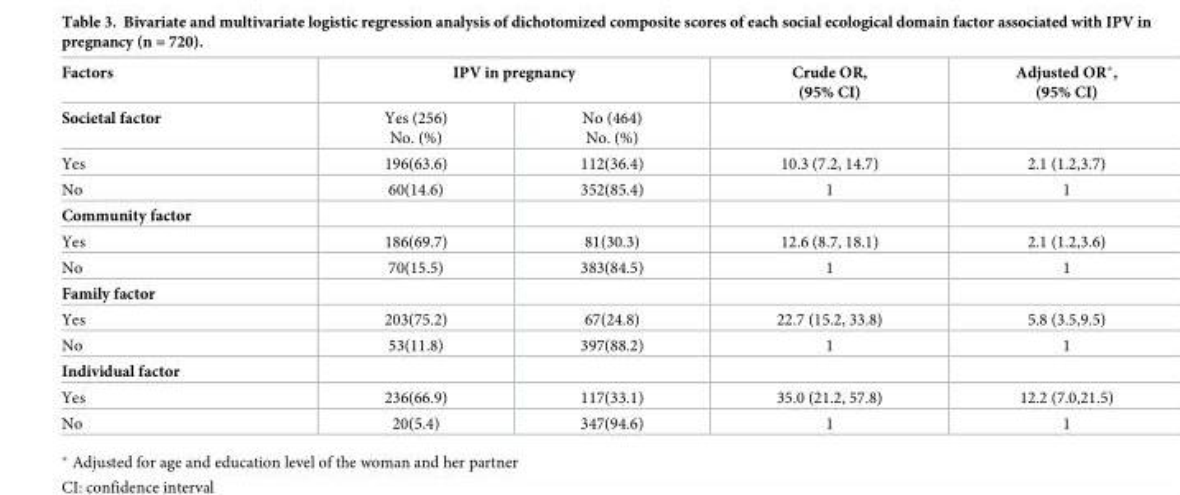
<table><thead><tr><td rowspan="2">Factors Societal factor</td><td colspan="2">IPV in pregnancy</td><td rowspan="2">Crude OR, (95% CI)</td><td rowspan="2">Adjusted OR*, (95% CI)</td></tr><tr><td>Yes (256) No. (%)</td><td>No (464) No. (%)</td></tr></thead><tbody><tr><td>Yes</td><td>196(63.6)</td><td>112(36.4)</td><td>10.3 (7.2, 14.7)</td><td>2.1 (1.2,3.7)</td></tr><tr><td>No</td><td>60(14.6)</td><td>352(85.4)</td><td>1</td><td>1</td></tr><tr><td colspan="5">Community factor</td></tr><tr><td>Yes</td><td>186(69.7)</td><td>81(30.3)</td><td>12.6 (8.7, 18.1)</td><td>2.1 (1.2,3.6)</td></tr><tr><td>No</td><td>70(15.5)</td><td>383(84.5)</td><td>1</td><td>1</td></tr><tr><td colspan="5">Family factor</td></tr><tr><td>Yes</td><td>203(75.2)</td><td>67(24.8)</td><td>22.7 (15.2, 33.8)</td><td>5.8 (3.5,9.5)</td></tr><tr><td>No</td><td>53(11.8)</td><td>397(88.2)</td><td>1</td><td>1</td></tr><tr><td colspan="5">Individual factor</td></tr><tr><td>Yes</td><td>236(66.9)</td><td>117(33.1)</td><td>35.0 (21.2, 57.8)</td><td>12.2 (7.0,21.5)</td></tr><tr><td>No</td><td>20(5.4)</td><td>347(94.6)</td><td>1</td><td>1</td></tr></tbody></table>